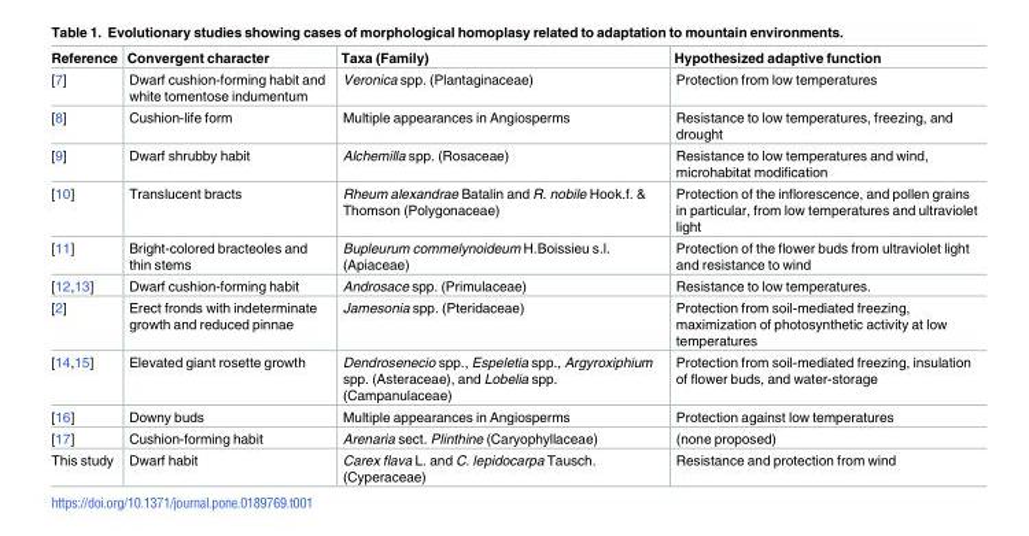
<table><thead><tr><td>Reference</td><td>Convergent character</td><td>Taxa (Family)</td><td>Hypothesized adaptive function</td></tr></thead><tbody><tr><td>[7]</td><td>Dwarf cushion-forming habit and white tomentose indumentum</td><td>Veronica spp. (Plantaginaceae)</td><td>Protection from low temperatures</td></tr><tr><td>[8]</td><td>Cushion-life form</td><td>Multiple appearances in Angiosperms</td><td>Resistance to low temperatures, freezing, and drought</td></tr><tr><td>[9]</td><td>Dwarf shrubby habit</td><td>Alchemilla spp. (Rosaceae)</td><td>Resistance to low temperatures and wind, microhabitat modification</td></tr><tr><td>[10]</td><td>Translucent bracts</td><td>Rheum alexandrae Batalin and R. nobile Hook.f. &amp; Thomson (Polygonaceae)</td><td>Protection of the inflorescence, and pollen grains in particular, from low temperatures and ultraviolet light</td></tr><tr><td>[11]</td><td>Bright-colored bracteoles and thin stems</td><td>Bupleurum commelynoideum H.Boissieu s.l. (Apiaceae)</td><td>Protection of the flower buds from ultraviolet light and resistance to wind</td></tr><tr><td>[12,13]</td><td>Dwarf cushion-forming habit</td><td>Androsace spp. (Primulaceae)</td><td>Resistance to low temperatures.</td></tr><tr><td>[2]</td><td>Erect fronds with indeterminate growth and reduced pinnae</td><td>Jamesonia spp. (Pteridaceae)</td><td>Protection from soil-mediated freezing, maximization of photosynthetic activity at low temperatures</td></tr><tr><td>[14,15]</td><td>Elevated giant rosette growth</td><td>Dendrosenecio spp., Espeletia spp., Argyroxiphium spp. (Asteraceae), and Lobelia spp. (Campanulaceae)</td><td>Protection from soil-mediated freezing, insulation of flower buds, and water-storage</td></tr><tr><td>[16]</td><td>Downy buds</td><td>Multiple appearances in Angiosperms</td><td>Protection against low temperatures</td></tr><tr><td>[17]</td><td>Cushion-forming habit</td><td>Arenaria sect. Plinthine (Caryophyllaceae)</td><td>(none proposed)</td></tr><tr><td>This study</td><td>Dwarf habit</td><td>Carex flava L. and C. lepidocarpa Tausch. (Cyperaceae)</td><td>Resistance and protection from wind</td></tr></tbody></table>